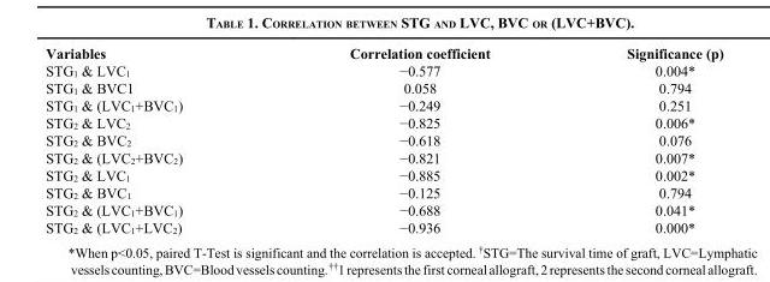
<table><thead><tr><td>Variables</td><td>Correlation coefficient</td><td>Significance (p)</td></tr></thead><tbody><tr><td>STG<sub>1</sub> &amp; LVC<sub>1</sub></td><td>−0.577</td><td>0.004*</td></tr><tr><td>STG<sub>1</sub> &amp; BVC1</td><td>0.058</td><td>0.794</td></tr><tr><td>STG<sub>1</sub> &amp; (LVC<sub>1</sub>+BVC<sub>1</sub>)</td><td>−0.249</td><td>0.251</td></tr><tr><td>STG<sub>2</sub> &amp; LVC<sub>2</sub></td><td>−0.825</td><td>0.006*</td></tr><tr><td>STG<sub>2</sub> &amp; BVC<sub>2</sub></td><td>−0.618</td><td>0.076</td></tr><tr><td>STG<sub>2</sub> &amp; (LVC<sub>2</sub>+BVC<sub>2</sub>)</td><td>−0.821</td><td>0.007*</td></tr><tr><td>STG<sub>2</sub> &amp; LVC<sub>1</sub></td><td>−0.885</td><td>0.002*</td></tr><tr><td>STG<sub>2</sub> &amp; BVC<sub>1</sub></td><td>−0.125</td><td>0.794</td></tr><tr><td>STG<sub>2</sub> &amp; (LVC<sub>1</sub>+BVC<sub>1</sub>)</td><td>−0.688</td><td>0.041*</td></tr><tr><td>STG<sub>2</sub> &amp; (LVC<sub>1</sub>+LVC<sub>2</sub>)</td><td>−0.936</td><td>0.000*</td></tr></tbody></table>